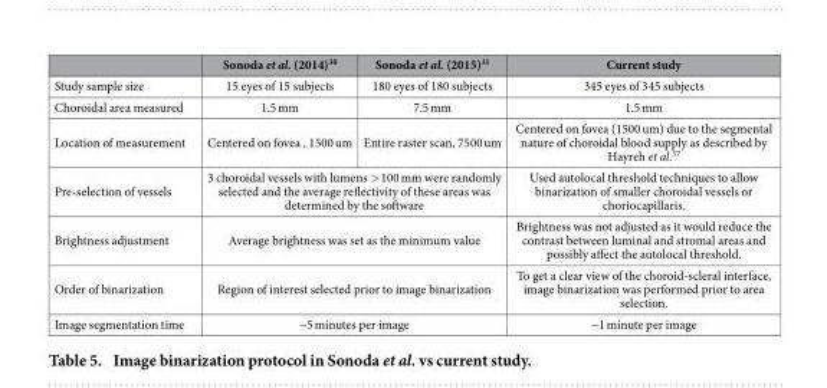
<table><thead><tr><td></td><td>Sonoda et al. (2014)<sup>30</sup></td><td>Sonoda et al. (2015)<sup>31</sup></td><td>Current study</td></tr></thead><tbody><tr><td>Study sample size</td><td>15 eyes of 15 subjects</td><td>180 eyes of 180 subjects</td><td>345 eyes of 345 subjects</td></tr><tr><td>Choroidal area measured</td><td>1.5 mm</td><td>7.5 mm</td><td>1.5 mm</td></tr><tr><td>Location of measurement</td><td>Centered on fovea , 1500 um</td><td>Entire raster scan, 7500 um</td><td>Centered on fovea (1500 um) due to the segmental nature of choroidal blood supply as described by Hayreh et al.<sup>37</sup></td></tr><tr><td>Pre-selection of vessels</td><td colspan="2">3 choroidal vessels with lumens &gt; 100 mm were randomly selected and the average reflectivity of these areas was determined by the software</td><td>Used autolocal threshold techniques to allow binarization of smaller choroidal vessels or choriocapillaris.</td></tr><tr><td>Brightness adjustment</td><td colspan="2">Average brightness was set as the minimum value</td><td>Brightness was not adjusted as it would reduce the contrast between luminal and stromal areas and possibly affect the autolocal threshold.</td></tr><tr><td>Order of binarization</td><td colspan="2">Region of interest selected prior to image binarization</td><td>To get a clear view of the choroid-scleral interface, image binarization was performed prior to area selection.</td></tr><tr><td>Image segmentation time</td><td colspan="2">~5 minutes per image</td><td>~1 minute per image</td></tr></tbody></table>